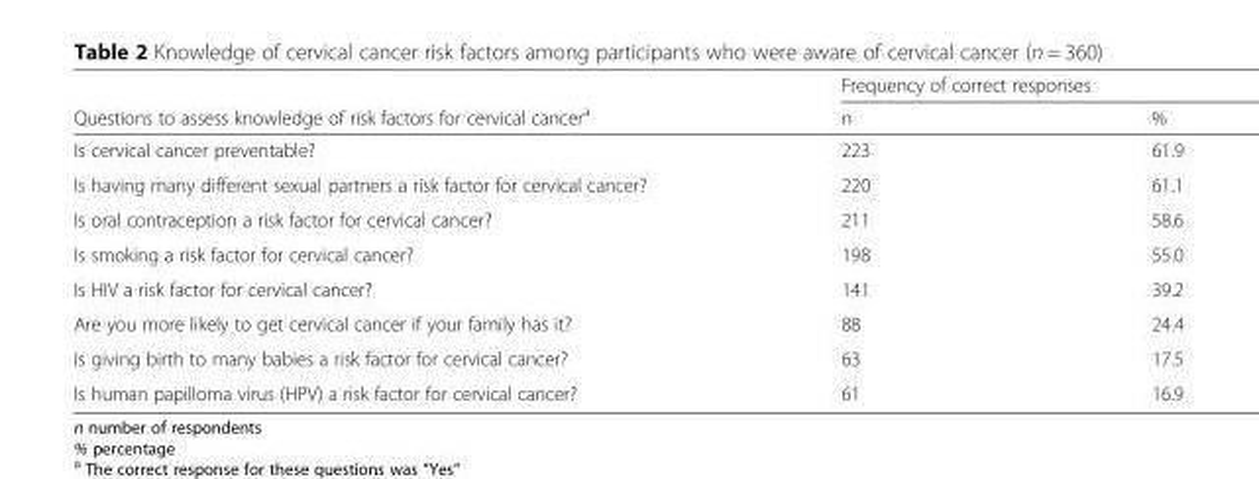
<table><thead><tr><td rowspan="2">Questions to assess knowledge of risk factors for cervical cancer<sup>a</sup></td><td colspan="2">Frequency of correct responses</td></tr><tr><td>n</td><td>%</td></tr></thead><tbody><tr><td>Is cervical cancer preventable?</td><td>223</td><td>61.9</td></tr><tr><td>Is having many different sexual partners a risk factor for cervical cancer?</td><td>220</td><td>61.1</td></tr><tr><td>Is oral contraception a risk factor for cervical cancer?</td><td>211</td><td>58.6</td></tr><tr><td>Is smoking a risk factor for cervical cancer?</td><td>198</td><td>55.0</td></tr><tr><td>Is HIV a risk factor for cervical cancer?</td><td>141</td><td>39.2</td></tr><tr><td>Are you more likely to get cervical cancer if your family has it?</td><td>88</td><td>24.4</td></tr><tr><td>Is giving birth to many babies a risk factor for cervical cancer?</td><td>63</td><td>17.5</td></tr><tr><td>Is human papilloma virus (HPV) a risk factor for cervical cancer?</td><td>61</td><td>16.9</td></tr></tbody></table>